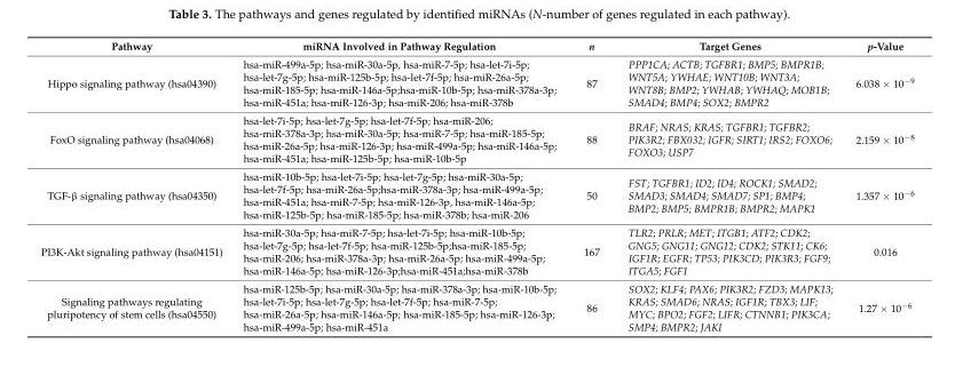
<table><thead><tr><td>Pathway</td><td>miRNA Involved in Pathway Regulation</td><td>n</td><td>Target Genes</td><td>p-Value</td></tr></thead><tbody><tr><td>Hippo signaling pathway (hsa04390)</td><td>hsa-miR-499a-5p; hsa-miR-30a-5p, hsa-miR-7-5p; hsa-let-7i-5p; hsa-let-7g-5p; hsa-miR-125b-5p; hsa-let-7f-5p; hsa-miR-26a-5p; hsa-miR-185-5p; hsa-miR-146a-5p;hsa-miR-10b-5p; hsa-miR-378a-3p; hsa-miR-451a; hsa-miR-126-3p; hsa-miR-206; hsa-miR-378b</td><td>87</td><td>PPP1CA; ACTB; TGFBR1; BMP5; BMPR1B; WNT5A; YWHAE; WNT10B; WNT3A; WNT8B; BMP2; YWHAB; YWHAQ; MOB1B; SMAD4; BMP4; SOX2; BMPR2</td><td>6.038 × 10<sup>−9</sup></td></tr><tr><td>FoxO signaling pathway (hsa04068)</td><td>hsa-let-7i-5p; hsa-let-7g-5p; hsa-let-7f-5p; hsa-miR-206; hsa-miR-378a-3p; hsa-miR-30a-5p; hsa-miR-7-5p; hsa-miR-185-5p; hsa-miR-26a-5p; hsa-miR-126-3p; hsa-miR-499a-5p; hsa-miR-146a-5p; hsa-miR-451a; hsa-miR-125b-5p; hsa-miR-10b-5p</td><td>88</td><td>BRAF; NRAS; KRAS; TGFBR1; TGFBR2; PIK3R2; FBX032; IGFR; SIRT1; IRS2; FOXO6; FOXO3; USP7</td><td>2.159 × 10<sup>−8</sup></td></tr><tr><td>TGF-β signaling pathway (hsa04350)</td><td>hsa-miR-10b-5p; hsa-let-7i-5p; hsa-let-7g-5p; hsa-miR-30a-5p; hsa-let-7f-5p; hsa-miR-26a-5p;hsa-miR-378a-3p; hsa-miR-499a-5p; hsa-miR-451a; hsa-miR-7-5p; hsa-miR-126-3p, hsa-miR-146a-5p; hsa-miR-125b-5p; hsa-miR-185-5p; hsa-miR-378b; hsa-miR-206</td><td>50</td><td>FST; TGFBR1; ID2; ID4; ROCK1; SMAD2; SMAD3; SMAD4; SMAD7; SP1; BMP4; BMP2; BMP5; BMPR1B; BMPR2; MAPK1</td><td>1.357 × 10<sup>−6</sup></td></tr><tr><td>PI3K-Akt signaling pathway (hsa04151)</td><td>hsa-miR-30a-5p; hsa-miR-7-5p; hsa-let-7i-5p; hsa-miR-10b-5p; hsa-let-7g-5p; hsa-let-7f-5p; hsa-miR-125b-5p;hsa-miR-185-5p; hsa-miR-206; hsa-miR-378a-3p; hsa-miR-26a-5p; hsa-miR-499a-5p; hsa-miR-146a-5p; hsa-miR-126-3p;hsa-miR-451a;hsa-miR-378b</td><td>167</td><td>TLR2; PRLR; MET; ITGB1; ATF2; CDK2; GNG5; GNG11; GNG12; CDK2; STK11; CK6; IGF1R; EGFR; TP53; PIK3CD; PIK3R3; FGF9; ITGA5; FGF1</td><td>0.016</td></tr><tr><td>Signaling pathways regulating pluripotency of stem cells (hsa04550)</td><td>hsa-miR-125b-5p; hsa-miR-30a-5p; hsa-miR-378a-3p; hsa-miR-10b-5p; hsa-let-7i-5p; hsa-let-7g-5p; hsa-let-7f-5p; hsa-miR-7-5p; hsa-miR-26a-5p; hsa-miR-146a-5p; hsa-miR-185-5p; hsa-miR-126-3p; hsa-miR-499a-5p; hsa-miR-451a</td><td>86</td><td>SOX2; KLF4; PAX6; PIK3R2; FZD3; MAPK13; KRAS; SMAD6; NRAS; IGF1R; TBX3; LIF; MYC; BPO2; FGF2; LIFR; CTNNB1; PIK3CA; SMP4; BMPR2; JAKI</td><td>1.27 × 10<sup>−6</sup></td></tr></tbody></table>